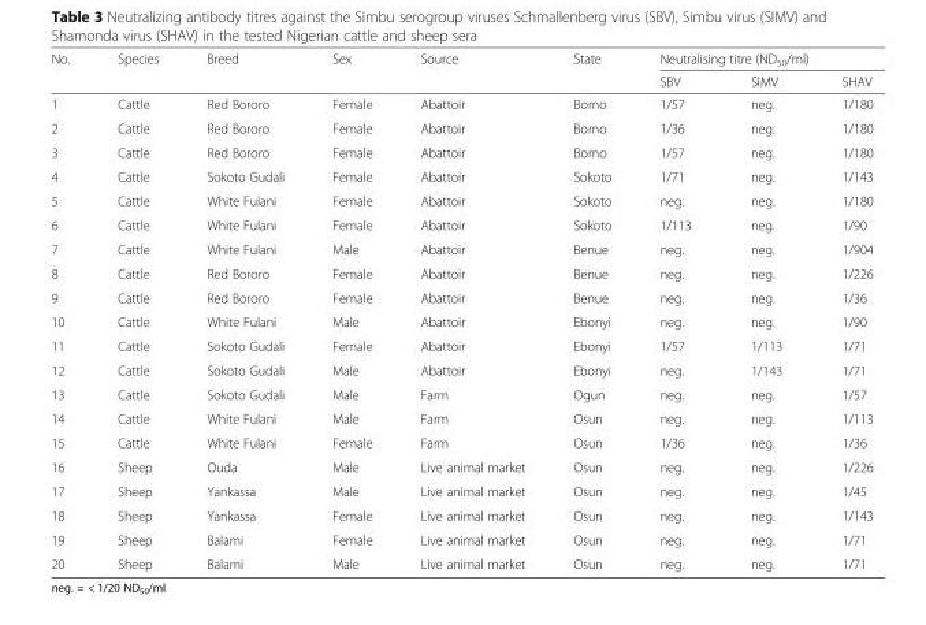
<table><thead><tr><td rowspan="2">No.</td><td rowspan="2">Species</td><td rowspan="2">Breed</td><td rowspan="2">Sex</td><td rowspan="2">Source</td><td rowspan="2">State</td><td colspan="3">Neutralising titre (ND<sub>50</sub>/ml)</td></tr><tr><td>SBV</td><td>SIMV</td><td>SHAV</td></tr></thead><tbody><tr><td>1</td><td>Cattle</td><td>Red Bororo</td><td>Female</td><td>Abattoir</td><td>Borno</td><td>1/57</td><td>neg.</td><td>1/180</td></tr><tr><td>2</td><td>Cattle</td><td>Red Bororo</td><td>Female</td><td>Abattoir</td><td>Borno</td><td>1/36</td><td>neg.</td><td>1/180</td></tr><tr><td>3</td><td>Cattle</td><td>Red Bororo</td><td>Female</td><td>Abattoir</td><td>Borno</td><td>1/57</td><td>neg.</td><td>1/180</td></tr><tr><td>4</td><td>Cattle</td><td>Sokoto Gudali</td><td>Female</td><td>Abattoir</td><td>Sokoto</td><td>1/71</td><td>neg.</td><td>1/143</td></tr><tr><td>5</td><td>Cattle</td><td>White Fulani</td><td>Female</td><td>Abattoir</td><td>Sokoto</td><td>neg.</td><td>neg.</td><td>1/180</td></tr><tr><td>6</td><td>Cattle</td><td>White Fulani</td><td>Female</td><td>Abattoir</td><td>Sokoto</td><td>1/113</td><td>neg.</td><td>1/90</td></tr><tr><td>7</td><td>Cattle</td><td>White Fulani</td><td>Male</td><td>Abattoir</td><td>Benue</td><td>neg.</td><td>neg.</td><td>1/904</td></tr><tr><td>8</td><td>Cattle</td><td>Red Bororo</td><td>Female</td><td>Abattoir</td><td>Benue</td><td>neg.</td><td>neg.</td><td>1/226</td></tr><tr><td>9</td><td>Cattle</td><td>Red Bororo</td><td>Female</td><td>Abattoir</td><td>Benue</td><td>neg.</td><td>neg.</td><td>1/36</td></tr><tr><td>10</td><td>Cattle</td><td>White Fulani</td><td>Male</td><td>Abattoir</td><td>Ebonyi</td><td>neg.</td><td>neg.</td><td>1/90</td></tr><tr><td>11</td><td>Cattle</td><td>Sokoto Gudali</td><td>Female</td><td>Abattoir</td><td>Ebonyi</td><td>1/57</td><td>1/113</td><td>1/71</td></tr><tr><td>12</td><td>Cattle</td><td>Sokoto Gudali</td><td>Male</td><td>Abattoir</td><td>Ebonyi</td><td>neg.</td><td>1/143</td><td>1/71</td></tr><tr><td>13</td><td>Cattle</td><td>Sokoto Gudali</td><td>Male</td><td>Farm</td><td>Ogun</td><td>neg.</td><td>neg.</td><td>1/57</td></tr><tr><td>14</td><td>Cattle</td><td>White Fulani</td><td>Male</td><td>Farm</td><td>Osun</td><td>neg.</td><td>neg.</td><td>1/113</td></tr><tr><td>15</td><td>Cattle</td><td>White Fulani</td><td>Female</td><td>Farm</td><td>Osun</td><td>1/36</td><td>neg.</td><td>1/36</td></tr><tr><td>16</td><td>Sheep</td><td>Ouda</td><td>Male</td><td>Live animal market</td><td>Osun</td><td>neg.</td><td>neg.</td><td>1/226</td></tr><tr><td>17</td><td>Sheep</td><td>Yankassa</td><td>Male</td><td>Live animal market</td><td>Osun</td><td>neg.</td><td>neg.</td><td>1/45</td></tr><tr><td>18</td><td>Sheep</td><td>Yankassa</td><td>Female</td><td>Live animal market</td><td>Osun</td><td>neg.</td><td>neg.</td><td>1/143</td></tr><tr><td>19</td><td>Sheep</td><td>Balami</td><td>Female</td><td>Live animal market</td><td>Osun</td><td>neg.</td><td>neg.</td><td>1/71</td></tr><tr><td>20</td><td>Sheep</td><td>Balami</td><td>Male</td><td>Live animal market</td><td>Osun</td><td>neg.</td><td>neg.</td><td>1/71</td></tr></tbody></table>